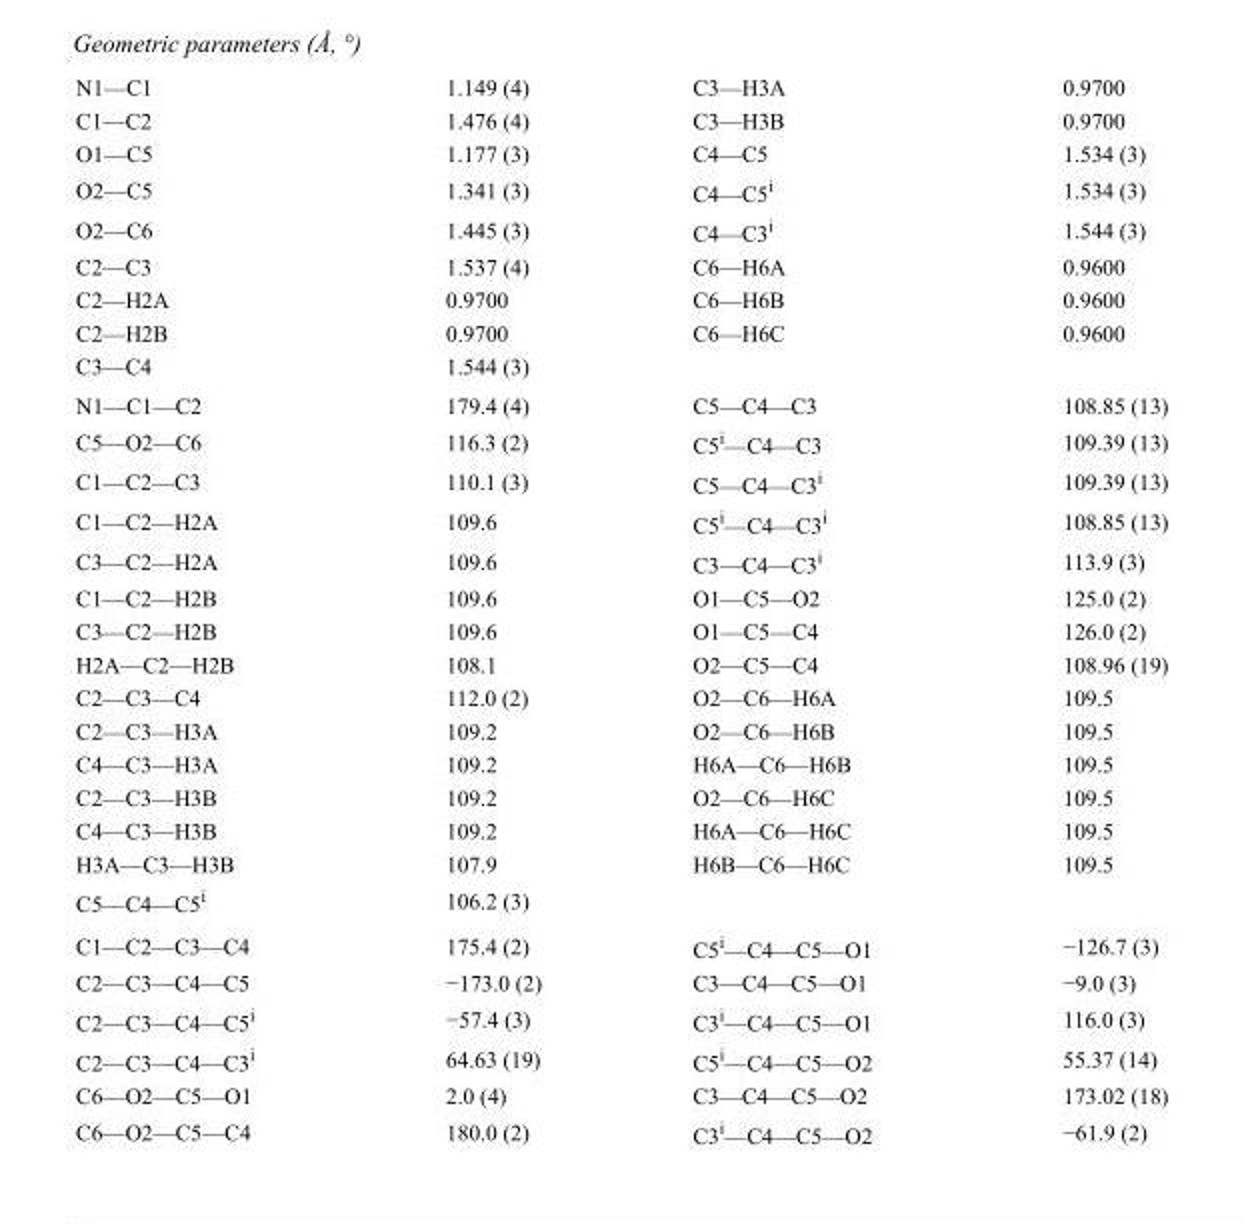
<table><tbody><tr><td>N1—C1</td><td>1.149 (4)</td><td>C3—H3A</td><td>0.9700</td></tr><tr><td>C1—C2</td><td>1.476 (4)</td><td>C3—H3B</td><td>0.9700</td></tr><tr><td>O1—C5</td><td>1.177 (3)</td><td>C4—C5</td><td>1.534 (3)</td></tr><tr><td>O2—C5</td><td>1.341 (3)</td><td>C4—C5<sup>i</sup></td><td>1.534 (3)</td></tr><tr><td>O2—C6</td><td>1.445 (3)</td><td>C4—C3<sup>i</sup></td><td>1.544 (3)</td></tr><tr><td>C2—C3</td><td>1.537 (4)</td><td>C6—H6A</td><td>0.9600</td></tr><tr><td>C2—H2A</td><td>0.9700</td><td>C6—H6B</td><td>0.9600</td></tr><tr><td>C2—H2B</td><td>0.9700</td><td>C6—H6C</td><td>0.9600</td></tr><tr><td>C3—C4</td><td>1.544 (3)</td><td></td><td></td></tr><tr><td>N1—C1—C2</td><td>179.4 (4)</td><td>C5—C4—C3</td><td>108.85 (13)</td></tr><tr><td>C5—O2—C6</td><td>116.3 (2)</td><td>C5<sup>i</sup>—C4—C3</td><td>109.39 (13)</td></tr><tr><td>C1—C2—C3</td><td>110.1 (3)</td><td>C5—C4—C3<sup>i</sup></td><td>109.39 (13)</td></tr><tr><td>C1—C2—H2A</td><td>109.6</td><td>C5<sup>i</sup>—C4—C3<sup>i</sup></td><td>108.85 (13)</td></tr><tr><td>C3—C2—H2A</td><td>109.6</td><td>C3—C4—C3<sup>i</sup></td><td>113.9 (3)</td></tr><tr><td>C1—C2—H2B</td><td>109.6</td><td>O1—C5—O2</td><td>125.0 (2)</td></tr><tr><td>C3—C2—H2B</td><td>109.6</td><td>O1—C5—C4</td><td>126.0 (2)</td></tr><tr><td>H2A—C2—H2B</td><td>108.1</td><td>O2—C5—C4</td><td>108.96 (19)</td></tr><tr><td>C2—C3—C4</td><td>112.0 (2)</td><td>O2—C6—H6A</td><td>109.5</td></tr><tr><td>C2—C3—H3A</td><td>109.2</td><td>O2—C6—H6B</td><td>109.5</td></tr><tr><td>C4—C3—H3A</td><td>109.2</td><td>H6A—C6—H6B</td><td>109.5</td></tr><tr><td>C2—C3—H3B</td><td>109.2</td><td>O2—C6—H6C</td><td>109.5</td></tr><tr><td>C4—C3—H3B</td><td>109.2</td><td>H6A—C6—H6C</td><td>109.5</td></tr><tr><td>H3A—C3—H3B</td><td>107.9</td><td>H6B—C6—H6C</td><td>109.5</td></tr><tr><td>C5—C4—C5<sup>i</sup></td><td>106.2 (3)</td><td></td><td></td></tr><tr><td>C1—C2—C3—C4</td><td>175.4 (2)</td><td>C5<sup>i</sup>—C4—C5—O1</td><td>−126.7 (3)</td></tr><tr><td>C2—C3—C4—C5</td><td>−173.0 (2)</td><td>C3—C4—C5—O1</td><td>−9.0 (3)</td></tr><tr><td>C2—C3—C4—C5<sup>i</sup></td><td>−57.4 (3)</td><td>C3<sup>i</sup>—C4—C5—O1</td><td>116.0 (3)</td></tr><tr><td>C2—C3—C4—C3<sup>i</sup></td><td>64.63 (19)</td><td>C5<sup>i</sup>—C4—C5—O2</td><td>55.37 (14)</td></tr><tr><td>C6—O2—C5—O1</td><td>2.0 (4)</td><td>C3—C4—C5—O2</td><td>173.02 (18)</td></tr><tr><td>C6—O2—C5—C4</td><td>180.0 (2)</td><td>C3<sup>i</sup>—C4—C5—O2</td><td>−61.9 (2)</td></tr></tbody></table>